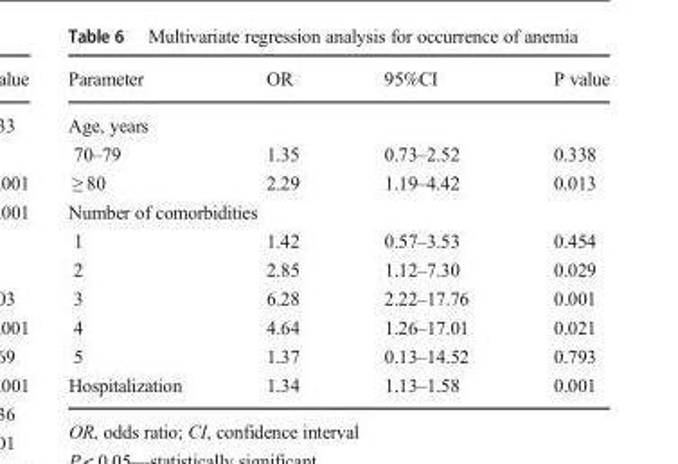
<table><thead><tr><td>Parameter</td><td>OR</td><td>95%CI</td><td>P value</td></tr></thead><tbody><tr><td colspan="4">Age, years</td></tr><tr><td>70–79</td><td>1.35</td><td>0.73–2.52</td><td>0.338</td></tr><tr><td>≥ 80</td><td>2.29</td><td>1.19–4.42</td><td>0.013</td></tr><tr><td colspan="4">Number of comorbidities</td></tr><tr><td>1</td><td>1.42</td><td>0.57–3.53</td><td>0.454</td></tr><tr><td>2</td><td>2.85</td><td>1.12–7.30</td><td>0.029</td></tr><tr><td>3</td><td>6.28</td><td>2.22–17.76</td><td>0.001</td></tr><tr><td>4</td><td>4.64</td><td>1.26–17.01</td><td>0.021</td></tr><tr><td>5</td><td>1.37</td><td>0.13–14.52</td><td>0.793</td></tr><tr><td>Hospitalization</td><td>1.34</td><td>1.13–1.58</td><td>0.001</td></tr></tbody></table>